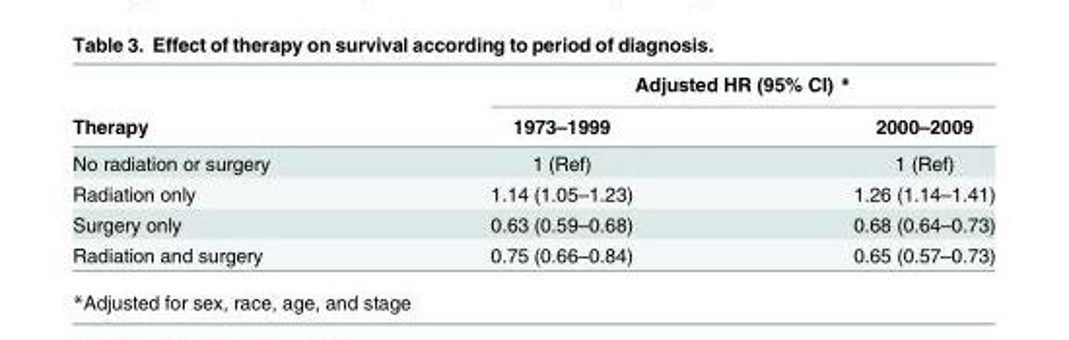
<table><thead><tr><td rowspan="2">Therapy</td><td colspan="2">Adjusted HR (95% CI) *</td></tr><tr><td>1973–1999</td><td>2000–2009</td></tr></thead><tbody><tr><td>No radiation or surgery</td><td>1 (Ref)</td><td>1 (Ref)</td></tr><tr><td>Radiation only</td><td>1.14 (1.05–1.23)</td><td>1.26 (1.14–1.41)</td></tr><tr><td>Surgery only</td><td>0.63 (0.59–0.68)</td><td>0.68 (0.64–0.73)</td></tr><tr><td>Radiation and surgery</td><td>0.75 (0.66–0.84)</td><td>0.65 (0.57–0.73)</td></tr></tbody></table>